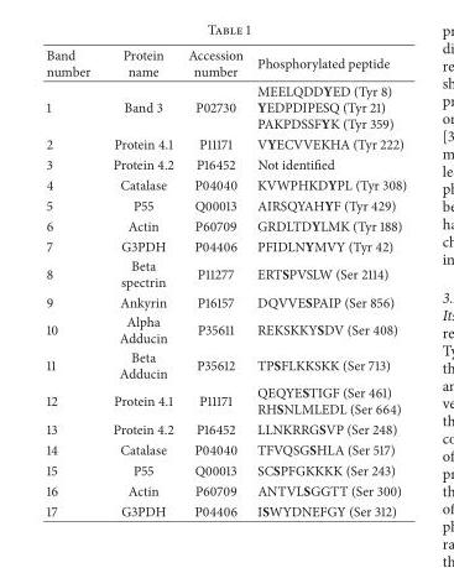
<table><thead><tr><td>Band number</td><td>Protein name</td><td>Accession number</td><td>Phosphorylated peptide</td></tr></thead><tbody><tr><td>1</td><td>Band 3</td><td>P02730</td><td>MEELQDDYED (Tyr 8) YEDPDIPESQ (Tyr 21) PAKPDSSFYK (Tyr 359)</td></tr><tr><td>2</td><td>Protein 4.1</td><td>P11171</td><td>VYECVVEKHA (Tyr 222)</td></tr><tr><td>3</td><td>Protein 4.2</td><td>P16452</td><td>Not identified</td></tr><tr><td>4</td><td>Catalase</td><td>P04040</td><td>KVWPHKDYPL (Tyr 308)</td></tr><tr><td>5</td><td>P55</td><td>Q00013</td><td>AIRSQYAHYF (Tyr 429)</td></tr><tr><td>6</td><td>Actin</td><td>P60709</td><td>GRDLTDYLMK (Tyr 188)</td></tr><tr><td>7</td><td>G3PDH</td><td>P04406</td><td>PFIDLNYMVY (Tyr 42)</td></tr><tr><td>8</td><td>Beta spectrin</td><td>P11277</td><td>ERTSPVSLW (Ser 2114)</td></tr><tr><td>9</td><td>Ankyrin</td><td>P16157</td><td>DQVVESPAIP (Ser 856)</td></tr><tr><td>10</td><td>Alpha Adducin</td><td>P35611</td><td>REKSKKYSDV (Ser 408)</td></tr><tr><td>11</td><td>Beta Adducin</td><td>P35612</td><td>TPSFLKKSKK (Ser 713)</td></tr><tr><td>12</td><td>Protein 4.1</td><td>P11171</td><td>QEQYESTIGF (Ser 461) RHSNLMLEDL (Ser 664)</td></tr><tr><td>13</td><td>Protein 4.2</td><td>P16452</td><td>LLNKRRGSVP (Ser 248)</td></tr><tr><td>14</td><td>Catalase</td><td>P04040</td><td>TFVQSGSHLA (Ser 517)</td></tr><tr><td>15</td><td>P55</td><td>Q00013</td><td>SCSPFGKKKK (Ser 243)</td></tr><tr><td>16</td><td>Actin</td><td>P60709</td><td>ANTVLSGGTT (Ser 300)</td></tr><tr><td>17</td><td>G3PDH</td><td>P04406</td><td>ISWYDNEFGY (Ser 312)</td></tr></tbody></table>